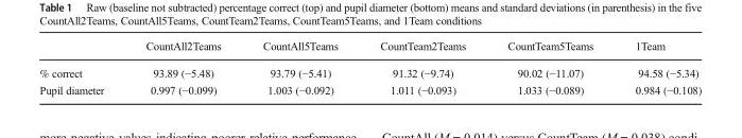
<table><thead><tr><td></td><td>CountAll2Teams</td><td>CountAll5Teams</td><td>CountTeam2Teams</td><td>CountTeam5Teams</td><td>1Team</td></tr></thead><tbody><tr><td>% correct</td><td>93.89 (−5.48)</td><td>93.79 (−5.41)</td><td>91.32 (−9.74)</td><td>90.02 (−11.07)</td><td>94.58 (−5.34)</td></tr><tr><td>Pupil diameter</td><td>0.997 (−0.099)</td><td>1.003 (−0.092)</td><td>1.011 (−0.093)</td><td>1.033 (−0.089)</td><td>0.984 (−0.108)</td></tr></tbody></table>